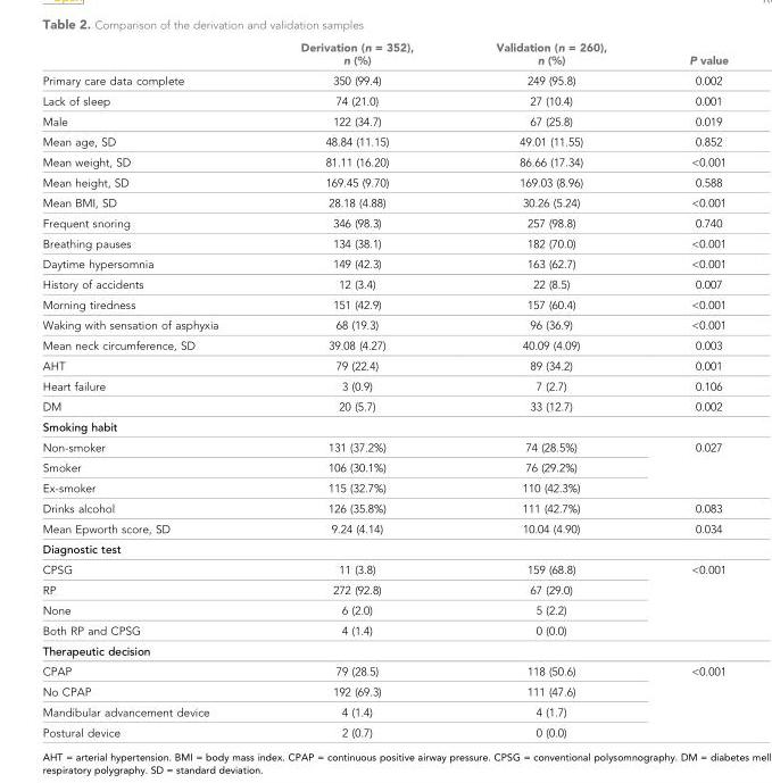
<table><thead><tr><td></td><td>Derivation (n = 352), n (%)</td><td>Validation (n = 260), n (%)</td><td>P value</td></tr></thead><tbody><tr><td>Primary care data complete</td><td>350 (99.4)</td><td>249 (95.8)</td><td>0.002</td></tr><tr><td>Lack of sleep</td><td>74 (21.0)</td><td>27 (10.4)</td><td>0.001</td></tr><tr><td>Male</td><td>122 (34.7)</td><td>67 (25.8)</td><td>0.019</td></tr><tr><td>Mean age, SD</td><td>48.84 (11.15)</td><td>49.01 (11.55)</td><td>0.852</td></tr><tr><td>Mean weight, SD</td><td>81.11 (16.20)</td><td>86.66 (17.34)</td><td>&lt;0.001</td></tr><tr><td>Mean height, SD</td><td>169.45 (9.70)</td><td>169.03 (8.96)</td><td>0.588</td></tr><tr><td>Mean BMI, SD</td><td>28.18 (4.88)</td><td>30.26 (5.24)</td><td>&lt;0.001</td></tr><tr><td>Frequent snoring</td><td>346 (98.3)</td><td>257 (98.8)</td><td>0.740</td></tr><tr><td>Breathing pauses</td><td>134 (38.1)</td><td>182 (70.0)</td><td>&lt;0.001</td></tr><tr><td>Daytime hypersomnia</td><td>149 (42.3)</td><td>163 (62.7)</td><td>&lt;0.001</td></tr><tr><td>History of accidents</td><td>12 (3.4)</td><td>22 (8.5)</td><td>0.007</td></tr><tr><td>Morning tiredness</td><td>151 (42.9)</td><td>157 (60.4)</td><td>&lt;0.001</td></tr><tr><td>Waking with sensation of asphyxia</td><td>68 (19.3)</td><td>96 (36.9)</td><td>&lt;0.001</td></tr><tr><td>Mean neck circumference, SD</td><td>39.08 (4.27)</td><td>40.09 (4.09)</td><td>0.003</td></tr><tr><td>AHT</td><td>79 (22.4)</td><td>89 (34.2)</td><td>0.001</td></tr><tr><td>Heart failure</td><td>3 (0.9)</td><td>7 (2.7)</td><td>0.106</td></tr><tr><td>DM</td><td>20 (5.7)</td><td>33 (12.7)</td><td>0.002</td></tr><tr><td colspan="4">Smoking habit</td></tr><tr><td>Non-smoker</td><td>131 (37.2%)</td><td>74 (28.5%)</td><td rowspan="3">0.027</td></tr><tr><td>Smoker</td><td>106 (30.1%)</td><td>76 (29.2%)</td></tr><tr><td>Ex-smoker</td><td>115 (32.7%)</td><td>110 (42.3%)</td></tr><tr><td>Drinks alcohol</td><td>126 (35.8%)</td><td>111 (42.7%)</td><td>0.083</td></tr><tr><td>Mean Epworth score, SD</td><td>9.24 (4.14)</td><td>10.04 (4.90)</td><td>0.034</td></tr><tr><td colspan="4">Diagnostic test</td></tr><tr><td>CPSG</td><td>11 (3.8)</td><td>159 (68.8)</td><td rowspan="4">&lt;0.001</td></tr><tr><td>RP</td><td>272 (92.8)</td><td>67 (29.0)</td></tr><tr><td>None</td><td>6 (2.0)</td><td>5 (2.2)</td></tr><tr><td>Both RP and CPSG</td><td>4 (1.4)</td><td>0 (0.0)</td></tr><tr><td colspan="4">Therapeutic decision</td></tr><tr><td>CPAP</td><td>79 (28.5)</td><td>118 (50.6)</td><td rowspan="4">&lt;0.001</td></tr><tr><td>No CPAP</td><td>192 (69.3)</td><td>111 (47.6)</td></tr><tr><td>Mandibular advancement device</td><td>4 (1.4)</td><td>4 (1.7)</td></tr><tr><td>Postural device</td><td>2 (0.7)</td><td>0 (0.0)</td></tr></tbody></table>